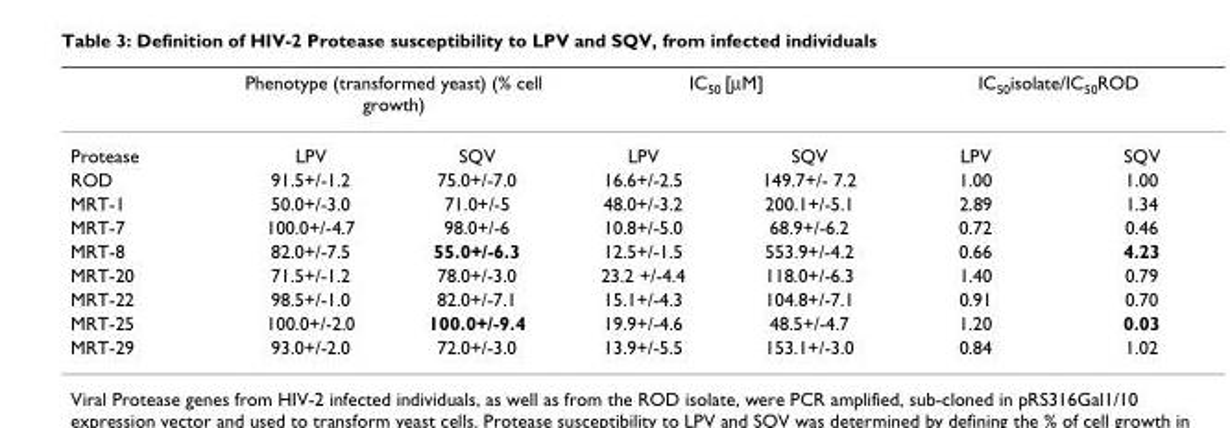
<table><thead><tr><td rowspan="2">Protease</td><td colspan="2">Phenotype (transformed yeast) (% cell growth)</td><td colspan="2">IC<sub>50</sub> [μM]</td><td colspan="2">IC<sub>50</sub>isolate/IC<sub>50</sub>ROD</td></tr><tr><td>LPV</td><td>SQV</td><td>LPV</td><td>SQV</td><td>LPV</td><td>SQV</td></tr></thead><tbody><tr><td>ROD</td><td>91.5+/-1.2</td><td>75.0+/-7.0</td><td>16.6+/-2.5</td><td>149.7+/- 7.2</td><td>1.00</td><td>1.00</td></tr><tr><td>MRT-1</td><td>50.0+/-3.0</td><td>71.0+/-5</td><td>48.0+/-3.2</td><td>200.1+/-5.1</td><td>2.89</td><td>1.34</td></tr><tr><td>MRT-7</td><td>100.0+/-4.7</td><td>98.0+/-6</td><td>10.8+/-5.0</td><td>68.9+/-6.2</td><td>0.72</td><td>0.46</td></tr><tr><td>MRT-8</td><td>82.0+/-7.5</td><td>55.0+/-6.3</td><td>12.5+/-1.5</td><td>553.9+/-4.2</td><td>0.66</td><td>4.23</td></tr><tr><td>MRT-20</td><td>71.5+/-1.2</td><td>78.0+/-3.0</td><td>23.2 +/-4.4</td><td>118.0+/-6.3</td><td>1.40</td><td>0.79</td></tr><tr><td>MRT-22</td><td>98.5+/-1.0</td><td>82.0+/-7.1</td><td>15.1+/-4.3</td><td>104.8+/-7.1</td><td>0.91</td><td>0.70</td></tr><tr><td>MRT-25</td><td>100.0+/-2.0</td><td>100.0+/-9.4</td><td>19.9+/-4.6</td><td>48.5+/-4.7</td><td>1.20</td><td>0.03</td></tr><tr><td>MRT-29</td><td>93.0+/-2.0</td><td>72.0+/-3.0</td><td>13.9+/-5.5</td><td>153.1+/-3.0</td><td>0.84</td><td>1.02</td></tr></tbody></table>